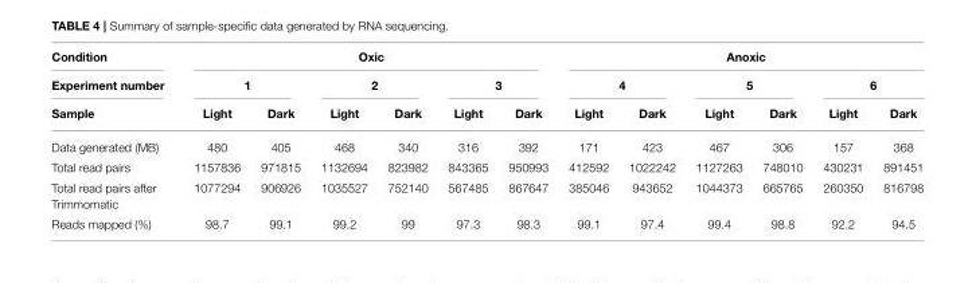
<table><thead><tr><td rowspan="3">Condition Experiment number Sample</td><td colspan="6">Oxic</td><td colspan="6">Anoxic</td></tr><tr><td colspan="2">1</td><td colspan="2">2</td><td colspan="2">3</td><td colspan="2">4</td><td colspan="2">5</td><td colspan="2">6</td></tr><tr><td>Light</td><td>Dark</td><td>Light</td><td>Dark</td><td>Light</td><td>Dark</td><td>Light</td><td>Dark</td><td>Light</td><td>Dark</td><td>Light</td><td>Dark</td></tr></thead><tbody><tr><td>Data generated (MB)</td><td>480</td><td>405</td><td>468</td><td>340</td><td>316</td><td>392</td><td>171</td><td>423</td><td>467</td><td>306</td><td>157</td><td>368</td></tr><tr><td>Total read pairs</td><td>1157836</td><td>971815</td><td>1132694</td><td>823982</td><td>843365</td><td>950993</td><td>412592</td><td>1022242</td><td>1127263</td><td>748010</td><td>430231</td><td>891451</td></tr><tr><td>Total read pairs after Trimmomatic</td><td>1077294</td><td>906926</td><td>1035527</td><td>752140</td><td>567485</td><td>867647</td><td>385046</td><td>943652</td><td>1044373</td><td>665765</td><td>260350</td><td>816798</td></tr><tr><td>Reads mapped (%)</td><td>98.7</td><td>99.1</td><td>99.2</td><td>99</td><td>97.3</td><td>98.3</td><td>99.1</td><td>97.4</td><td>99.4</td><td>98.8</td><td>92.2</td><td>94.5</td></tr></tbody></table>